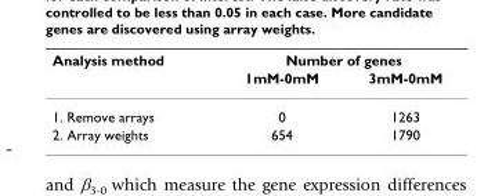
<table><thead><tr><td rowspan="2">Analysis method</td><td colspan="2">Number of genes</td></tr><tr><td>1mM-0mM</td><td>3mM-0mM</td></tr></thead><tbody><tr><td>1. Remove arrays</td><td>0</td><td>1263</td></tr><tr><td>2. Array weights</td><td>654</td><td>1790</td></tr></tbody></table>